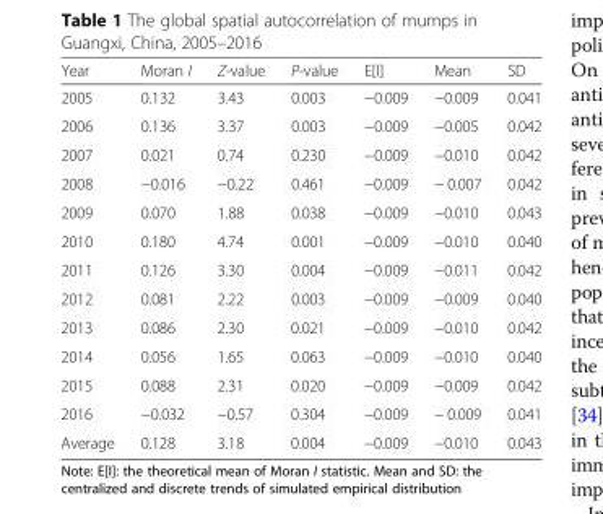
<table><thead><tr><td>Year</td><td>Moran I</td><td>Z-value</td><td>P-value</td><td>E[I]</td><td>Mean</td><td>SD</td></tr></thead><tbody><tr><td>2005</td><td>0.132</td><td>3.43</td><td>0.003</td><td>−0.009</td><td>−0.009</td><td>0.041</td></tr><tr><td>2006</td><td>0.136</td><td>3.37</td><td>0.003</td><td>−0.009</td><td>−0.005</td><td>0.042</td></tr><tr><td>2007</td><td>0.021</td><td>0.74</td><td>0.230</td><td>−0.009</td><td>−0.010</td><td>0.042</td></tr><tr><td>2008</td><td>−0.016</td><td>−0.22</td><td>0.461</td><td>−0.009</td><td>− 0.007</td><td>0.042</td></tr><tr><td>2009</td><td>0.070</td><td>1.88</td><td>0.038</td><td>−0.009</td><td>−0.010</td><td>0.043</td></tr><tr><td>2010</td><td>0.180</td><td>4.74</td><td>0.001</td><td>−0.009</td><td>−0.010</td><td>0.040</td></tr><tr><td>2011</td><td>0.126</td><td>3.30</td><td>0.004</td><td>−0.009</td><td>−0.011</td><td>0.042</td></tr><tr><td>2012</td><td>0.081</td><td>2.22</td><td>0.003</td><td>−0.009</td><td>−0.009</td><td>0.040</td></tr><tr><td>2013</td><td>0.086</td><td>2.30</td><td>0.021</td><td>−0.009</td><td>−0.010</td><td>0.042</td></tr><tr><td>2014</td><td>0.056</td><td>1.65</td><td>0.063</td><td>−0.009</td><td>−0.010</td><td>0.040</td></tr><tr><td>2015</td><td>0.088</td><td>2.31</td><td>0.020</td><td>−0.009</td><td>−0.009</td><td>0.042</td></tr><tr><td>2016</td><td>−0.032</td><td>−0.57</td><td>0.304</td><td>−0.009</td><td>− 0.009</td><td>0.041</td></tr><tr><td>Average</td><td>0.128</td><td>3.18</td><td>0.004</td><td>−0.009</td><td>−0.010</td><td>0.043</td></tr></tbody></table>